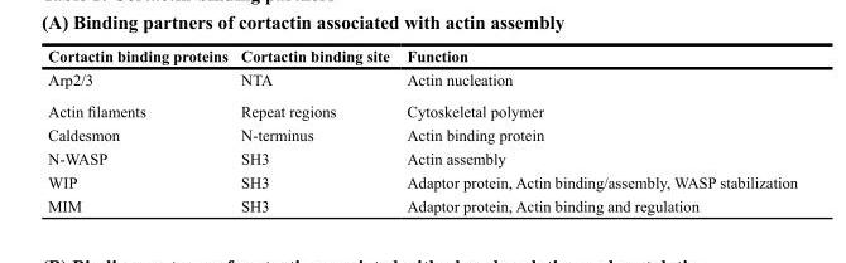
<table><thead><tr><td>Cortactin binding proteins</td><td>Cortactin binding site</td><td>Function</td></tr></thead><tbody><tr><td>Arp2/3</td><td>NTA</td><td>Actin nucleation</td></tr><tr><td>Actin filaments</td><td>Repeat regions</td><td>Cytoskeletal polymer</td></tr><tr><td>Caldesmon</td><td>N-terminus</td><td>Actin binding protein</td></tr><tr><td>N-WASP</td><td>SH3</td><td>Actin assembly</td></tr><tr><td>WIP</td><td>SH3</td><td>Adaptor protein, Actin binding/assembly, WASP stabilization</td></tr><tr><td>MIM</td><td>SH3</td><td>Adaptor protein, Actin binding and regulation</td></tr></tbody></table>